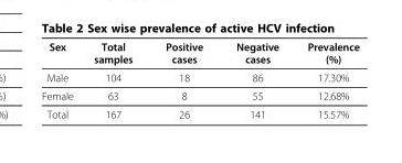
<table><thead><tr><td>Sex</td><td>Total samples</td><td>Positive cases</td><td>Negative cases</td><td>Prevalence (%)</td></tr></thead><tbody><tr><td>Male</td><td>104</td><td>18</td><td>86</td><td>17.30%</td></tr><tr><td>Female</td><td>63</td><td>8</td><td>55</td><td>12.68%</td></tr><tr><td>Total</td><td>167</td><td>26</td><td>141</td><td>15.57%</td></tr></tbody></table>